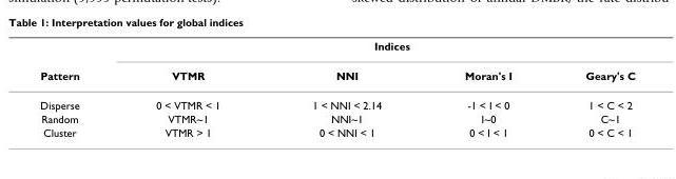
<table><thead><tr><td rowspan="2">Pattern</td><td colspan="4">Indices</td></tr><tr><td>VTMR</td><td>NNI</td><td>Moran&#x27;s I</td><td>Geary&#x27;s C</td></tr></thead><tbody><tr><td>Disperse</td><td>0 &lt; VTMR &lt; 1</td><td>1 &lt; NNI &lt; 2.14</td><td>-1 &lt; I &lt; 0</td><td>1 &lt; C &lt; 2</td></tr><tr><td>Random</td><td>VTMR~1</td><td>NNI~1</td><td>I~0</td><td>C~1</td></tr><tr><td>Cluster</td><td>VTMR &gt; 1</td><td>0 &lt; NNI &lt; 1</td><td>0 &lt; I &lt; 1</td><td>0 &lt; C &lt; 1</td></tr></tbody></table>